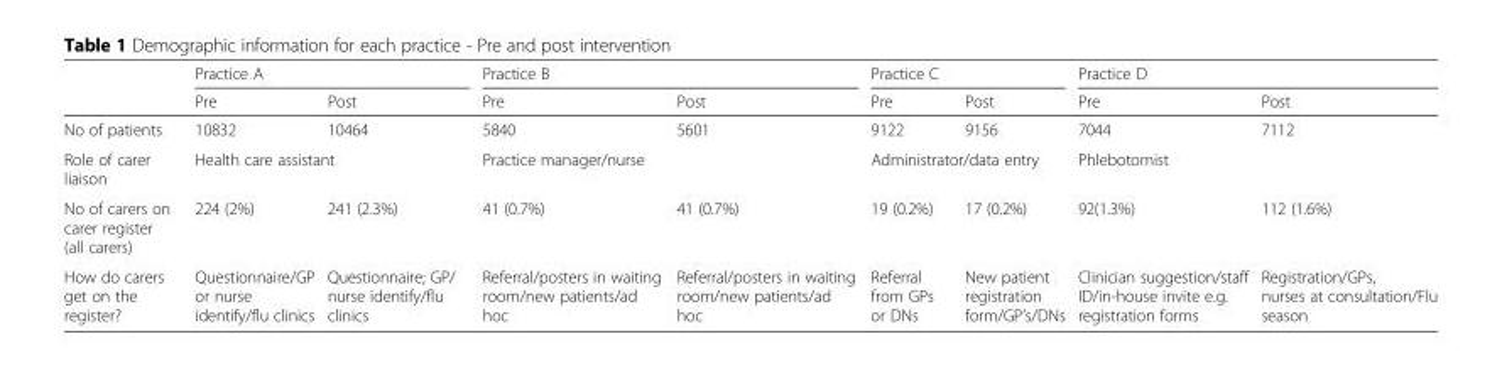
<table><thead><tr><td rowspan="2"></td><td colspan="2">Practice A</td><td colspan="2">Practice B</td><td colspan="2">Practice C</td><td colspan="2">Practice D</td></tr><tr><td>Pre</td><td>Post</td><td>Pre</td><td>Post</td><td>Pre</td><td>Post</td><td>Pre</td><td>Post</td></tr></thead><tbody><tr><td>No of patients</td><td>10832</td><td>10464</td><td>5840</td><td>5601</td><td>9122</td><td>9156</td><td>7044</td><td>7112</td></tr><tr><td>Role of carer liaison</td><td colspan="2">Health care assistant</td><td colspan="2">Practice manager/nurse</td><td colspan="2">Administrator/data entry</td><td colspan="2">Phlebotomist</td></tr><tr><td>No of carers on carer register (all carers)</td><td>224 (2%)</td><td>241 (2.3%)</td><td>41 (0.7%)</td><td>41 (0.7%)</td><td>19 (0.2%)</td><td>17 (0.2%)</td><td>92(1.3%)</td><td>112 (1.6%)</td></tr><tr><td>How do carers get on the register?</td><td>Questionnaire/GP or nurse identify/flu clinics</td><td>Questionnaire; GP/ nurse identify/flu clinics</td><td>Referral/posters in waiting room/new patients/ad hoc</td><td>Referral/posters in waiting room/new patients/ad hoc</td><td>Referral from GPs or DNs</td><td>New patient registration form/GP’s/DNs</td><td>Clinician suggestion/staff ID/in-house invite e.g. registration forms</td><td>Registration/GPs, nurses at consultation/Flu season</td></tr></tbody></table>